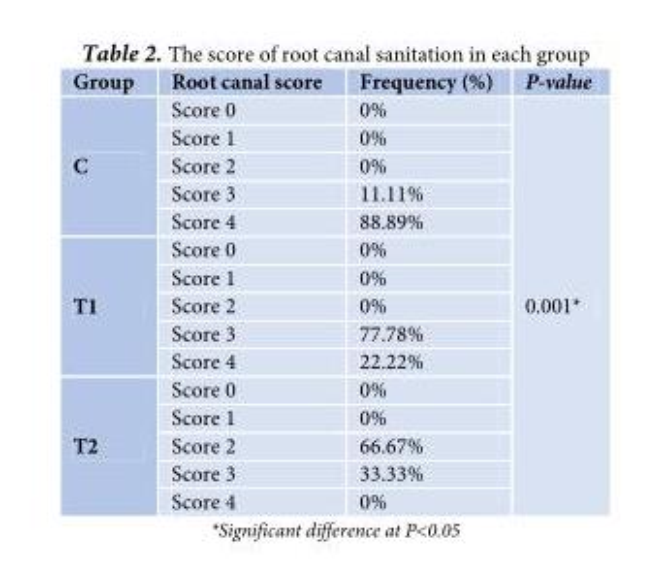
<table><thead><tr><td>Group</td><td>Root canal score</td><td>Frequency (%)</td><td>P-value</td></tr></thead><tbody><tr><td rowspan="5">C</td><td>Score 0</td><td>0%</td><td rowspan="15">0.001*</td></tr><tr><td>Score 1</td><td>0%</td></tr><tr><td>Score 2</td><td>0%</td></tr><tr><td>Score 3</td><td>11.11%</td></tr><tr><td>Score 4</td><td>88.89%</td></tr><tr><td rowspan="5">T1</td><td>Score 0</td><td>0%</td></tr><tr><td>Score 1</td><td>0%</td></tr><tr><td>Score 2</td><td>0%</td></tr><tr><td>Score 3</td><td>77.78%</td></tr><tr><td>Score 4</td><td>22.22%</td></tr><tr><td rowspan="5">T2</td><td>Score 0</td><td>0%</td></tr><tr><td>Score 1</td><td>0%</td></tr><tr><td>Score 2</td><td>66.67%</td></tr><tr><td>Score 3</td><td>33.33%</td></tr><tr><td>Score 4</td><td>0%</td></tr></tbody></table>